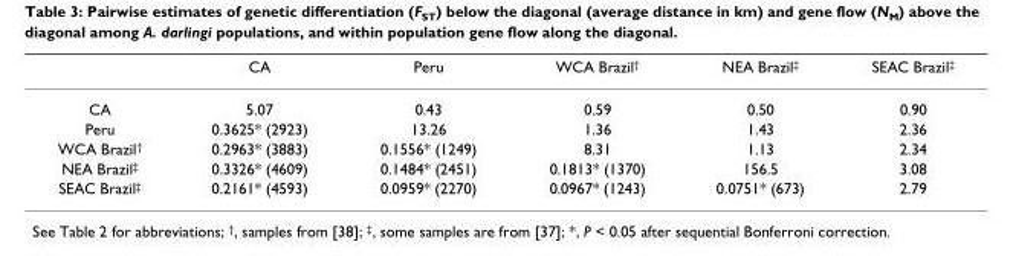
<table><thead><tr><td></td><td>CA</td><td>Peru</td><td>WCA Brazil<sup>†</sup></td><td>NEA Brazil<sup>‡</sup></td><td>SEAC Brazil<sup>‡</sup></td></tr></thead><tbody><tr><td>CA</td><td>5.07</td><td>0.43</td><td>0.59</td><td>0.50</td><td>0.90</td></tr><tr><td>Peru</td><td>0.3625* (2923)</td><td>13.26</td><td>1.36</td><td>1.43</td><td>2.36</td></tr><tr><td>WCA Brazil<sup>†</sup></td><td>0.2963* (3883)</td><td>0.1556* (1249)</td><td>8.31</td><td>1.13</td><td>2.34</td></tr><tr><td>NEA Brazil<sup>‡</sup></td><td>0.3326* (4609)</td><td>0.1484* (2451)</td><td>0.1813* (1370)</td><td>156.5</td><td>3.08</td></tr><tr><td>SEAC Brazil<sup>‡</sup></td><td>0.2161* (4593)</td><td>0.0959* (2270)</td><td>0.0967* (1243)</td><td>0.0751* (673)</td><td>2.79</td></tr></tbody></table>